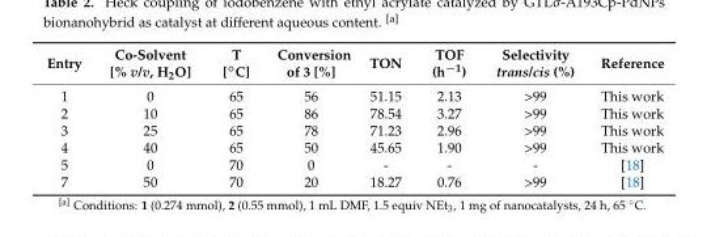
<table><thead><tr><td>Entry</td><td>Co-Solvent [% v/v, H2O]</td><td>T [◦C]</td><td>Conversion of 3 [%]</td><td>TON</td><td>TOF (h−1)</td><td>Selectivity trans/cis (%)</td><td>Reference</td></tr></thead><tbody><tr><td>1</td><td>0</td><td>65</td><td>56</td><td>51.15</td><td>2.13</td><td>&gt;99</td><td>This work</td></tr><tr><td>2</td><td>10</td><td>65</td><td>86</td><td>78.54</td><td>3.27</td><td>&gt;99</td><td>This work</td></tr><tr><td>3</td><td>25</td><td>65</td><td>78</td><td>71.23</td><td>2.96</td><td>&gt;99</td><td>This work</td></tr><tr><td>4</td><td>40</td><td>65</td><td>50</td><td>45.65</td><td>1.90</td><td>&gt;99</td><td>This work</td></tr><tr><td>5</td><td>0</td><td>70</td><td>0</td><td>-</td><td>-</td><td>-</td><td>[18]</td></tr><tr><td>7</td><td>50</td><td>70</td><td>20</td><td>18.27</td><td>0.76</td><td>&gt;99</td><td>[18]</td></tr></tbody></table>